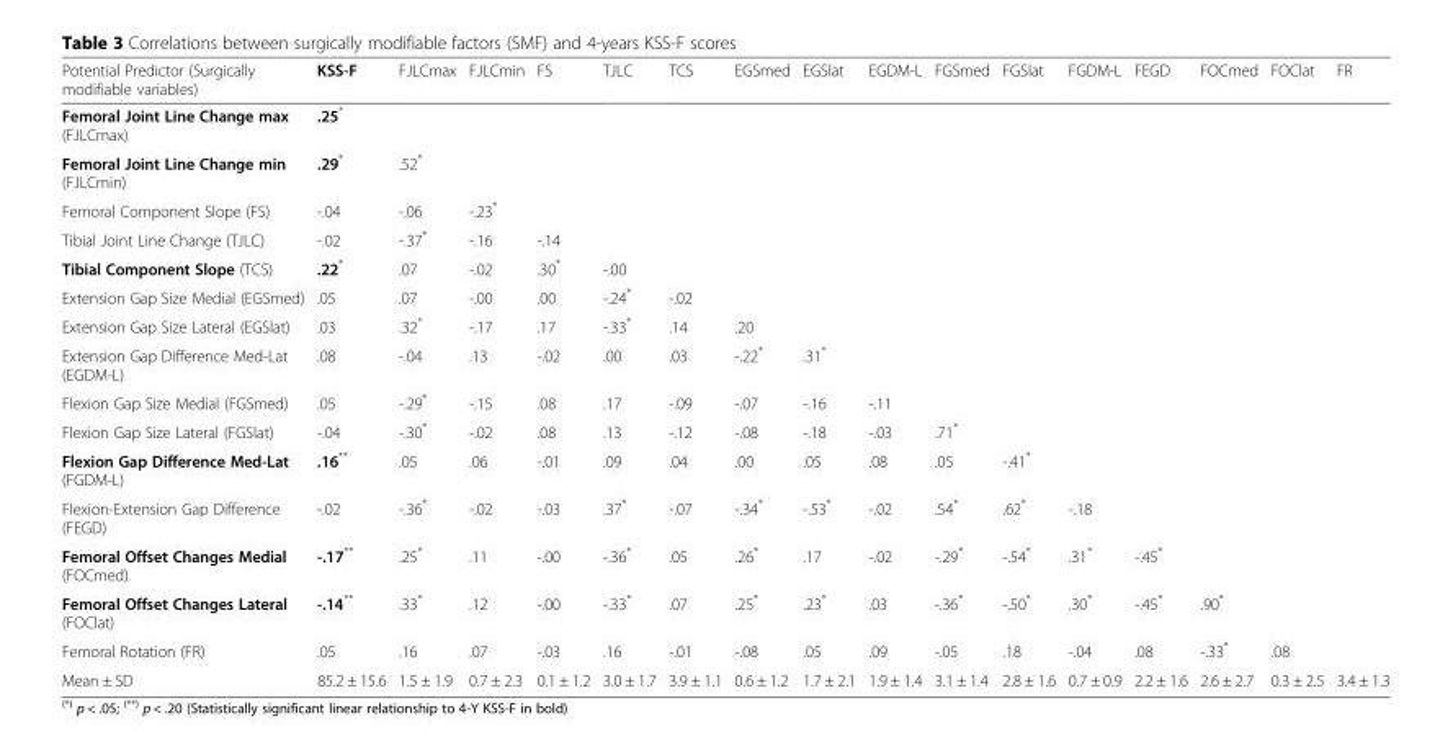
<table><thead><tr><td>Potential Predictor (Surgically modifiable variables)</td><td>KSS-F</td><td>FJLCmax</td><td>FJLCmin</td><td>FS</td><td>TJLC</td><td>TCS</td><td>EGSmed</td><td>EGSlat</td><td>EGDM-L</td><td>FGSmed</td><td>FGSlat</td><td>FGDM-L</td><td>FEGD</td><td>FOCmed</td><td>FOClat</td><td>FR</td></tr></thead><tbody><tr><td>Femoral Joint Line Change max (FJLCmax)</td><td>.25*</td><td></td><td></td><td></td><td></td><td></td><td></td><td></td><td></td><td></td><td></td><td></td><td></td><td></td><td></td><td></td></tr><tr><td>Femoral Joint Line Change min (FJLCmin)</td><td>.29*</td><td>.52*</td><td></td><td></td><td></td><td></td><td></td><td></td><td></td><td></td><td></td><td></td><td></td><td></td><td></td><td></td></tr><tr><td>Femoral Component Slope (FS)</td><td>-.04</td><td>-.06</td><td>-.23*</td><td></td><td></td><td></td><td></td><td></td><td></td><td></td><td></td><td></td><td></td><td></td><td></td><td></td></tr><tr><td>Tibial Joint Line Change (TJLC)</td><td>-.02</td><td>-.37*</td><td>-.16</td><td>-.14</td><td></td><td></td><td></td><td></td><td></td><td></td><td></td><td></td><td></td><td></td><td></td><td></td></tr><tr><td>Tibial Component Slope (TCS)</td><td>.22*</td><td>.07</td><td>-.02</td><td>.30*</td><td>-.00</td><td></td><td></td><td></td><td></td><td></td><td></td><td></td><td></td><td></td><td></td><td></td></tr><tr><td>Extension Gap Size Medial (EGSmed)</td><td>.05</td><td>.07</td><td>-.00</td><td>.00</td><td>-.24*</td><td>-.02</td><td></td><td></td><td></td><td></td><td></td><td></td><td></td><td></td><td></td><td></td></tr><tr><td>Extension Gap Size Lateral (EGSlat)</td><td>.03</td><td>.32*</td><td>-.17</td><td>.17</td><td>-.33*</td><td>.14</td><td>.20</td><td></td><td></td><td></td><td></td><td></td><td></td><td></td><td></td><td></td></tr><tr><td>Extension Gap Difference Med-Lat (EGDM-L)</td><td>.08</td><td>-.04</td><td>.13</td><td>-.02</td><td>.00</td><td>.03</td><td>-.22*</td><td>.31*</td><td></td><td></td><td></td><td></td><td></td><td></td><td></td><td></td></tr><tr><td>Flexion Gap Size Medial (FGSmed)</td><td>.05</td><td>-.29*</td><td>-.15</td><td>.08</td><td>.17</td><td>-.09</td><td>-.07</td><td>-.16</td><td>-.11</td><td></td><td></td><td></td><td></td><td></td><td></td><td></td></tr><tr><td>Flexion Gap Size Lateral (FGSlat)</td><td>-.04</td><td>-.30*</td><td>-.02</td><td>.08</td><td>.13</td><td>-.12</td><td>-.08</td><td>-.18</td><td>-.03</td><td>.71*</td><td></td><td></td><td></td><td></td><td></td><td></td></tr><tr><td>Flexion Gap Difference Med-Lat (FGDM-L)</td><td>.16**</td><td>.05</td><td>.06</td><td>-.01</td><td>.09</td><td>.04</td><td>.00</td><td>.05</td><td>.08</td><td>.05</td><td>-.41*</td><td></td><td></td><td></td><td></td><td></td></tr><tr><td>Flexion-Extension Gap Difference (FEGD)</td><td>-.02</td><td>-.36*</td><td>-.02</td><td>-.03</td><td>.37*</td><td>-.07</td><td>-.34*</td><td>-.53*</td><td>-.02</td><td>.54*</td><td>.62*</td><td>-.18</td><td></td><td></td><td></td><td></td></tr><tr><td>Femoral Offset Changes Medial (FOCmed)</td><td>-.17**</td><td>.25*</td><td>.11</td><td>-.00</td><td>-.36*</td><td>.05</td><td>.26*</td><td>.17</td><td>-.02</td><td>-.29*</td><td>-.54*</td><td>.31*</td><td>-.45*</td><td></td><td></td><td></td></tr><tr><td>Femoral Offset Changes Lateral (FOClat)</td><td>-.14**</td><td>.33*</td><td>.12</td><td>-.00</td><td>-.33*</td><td>.07</td><td>.25*</td><td>.23*</td><td>.03</td><td>-.36*</td><td>-.50*</td><td>.30*</td><td>-.45*</td><td>.90*</td><td></td><td></td></tr><tr><td>Femoral Rotation (FR)</td><td>.05</td><td>.16</td><td>.07</td><td>-.03</td><td>.16</td><td>-.01</td><td>-.08</td><td>.05</td><td>.09</td><td>-.05</td><td>.18</td><td>-.04</td><td>.08</td><td>-.33*</td><td>.08</td><td></td></tr><tr><td>Mean ± SD</td><td>85.2 ± 15.6</td><td>1.5 ± 1.9</td><td>0.7 ± 2.3</td><td>0.1 ± 1.2</td><td>3.0 ± 1.7</td><td>3.9 ± 1.1</td><td>0.6 ± 1.2</td><td>1.7 ± 2.1</td><td>1.9 ± 1.4</td><td>3.1 ± 1.4</td><td>2.8 ± 1.6</td><td>0.7 ± 0.9</td><td>2.2 ± 1.6</td><td>2.6 ± 2.7</td><td>0.3 ± 2.5</td><td>3.4 ± 1.3</td></tr></tbody></table>